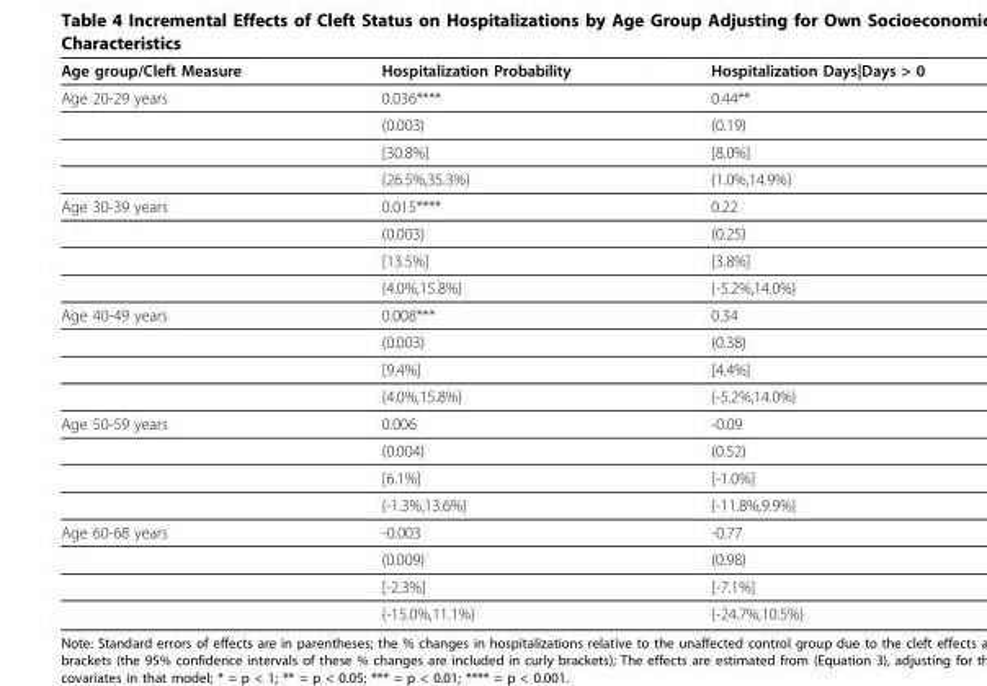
<table><thead><tr><td>Age group/Cleft Measure</td><td>Hospitalization Probability</td><td>Hospitalization Days|Days &gt; 0</td></tr></thead><tbody><tr><td rowspan="4">Age 20-29 years</td><td>0.036****</td><td>0.44**</td></tr><tr><td>(0.003)</td><td>(0.19)</td></tr><tr><td>[30.8%]</td><td>[8.0%]</td></tr><tr><td>{26.5%,35.3%}</td><td>{1.0%,14.9%}</td></tr><tr><td rowspan="4">Age 30-39 years</td><td>0.015****</td><td>0.22</td></tr><tr><td>(0.003)</td><td>(0.25)</td></tr><tr><td>[13.5%]</td><td>[3.8%]</td></tr><tr><td>{4.0%,15.8%}</td><td>{-5.2%,14.0%}</td></tr><tr><td rowspan="4">Age 40-49 years</td><td>0.008***</td><td>0.34</td></tr><tr><td>(0.003)</td><td>(0.38)</td></tr><tr><td>[9.4%]</td><td>[4.4%]</td></tr><tr><td>{4.0%,15.8%}</td><td>{-5.2%,14.0%}</td></tr><tr><td rowspan="4">Age 50-59 years</td><td>0.006</td><td>-0.09</td></tr><tr><td>(0.004)</td><td>(0.52)</td></tr><tr><td>[6.1%]</td><td>[-1.0%]</td></tr><tr><td>{-1.3%,13.6%}</td><td>{-11.8%,9.9%}</td></tr><tr><td rowspan="4">Age 60-68 years</td><td>-0.003</td><td>-0.77</td></tr><tr><td>(0.009)</td><td>(0.98)</td></tr><tr><td>[-2.3%]</td><td>[-7.1%]</td></tr><tr><td>{-15.0%,11.1%}</td><td>{-24.7%,10.5%}</td></tr></tbody></table>